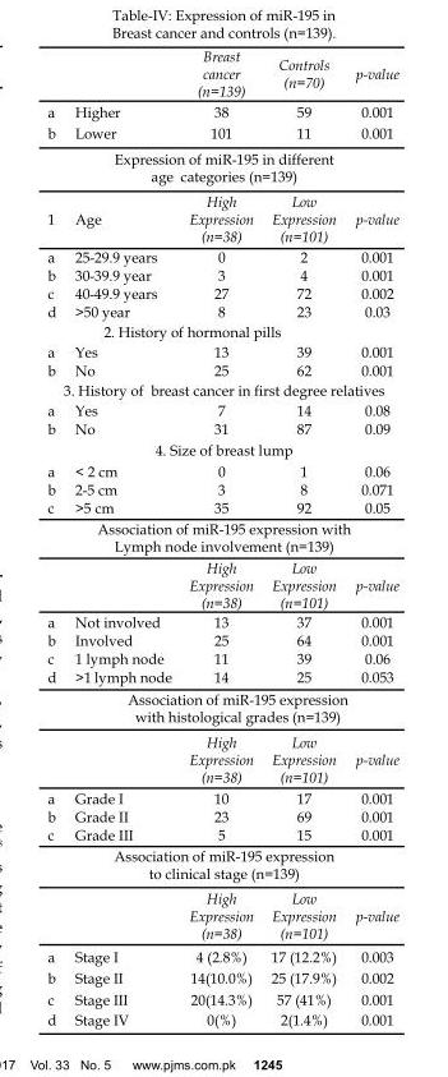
<table><thead><tr><td></td><td></td><td>Breast cancer (n=139)</td><td>Controls (n=70)</td><td>p-value</td></tr></thead><tbody><tr><td>a</td><td>Higher</td><td>38</td><td>59</td><td>0.001</td></tr><tr><td>b</td><td>Lower</td><td>101</td><td>11</td><td>0.001</td></tr><tr><td colspan="5">Expression of miR-195 in different age categories (n=139)</td></tr><tr><td>1</td><td>Age</td><td>High Expression (n=38)</td><td>Low Expression (n=101)</td><td>p-value</td></tr><tr><td>a</td><td>25-29.9 years</td><td>0</td><td>2</td><td>0.001</td></tr><tr><td>b</td><td>30-39.9 year</td><td>3</td><td>4</td><td>0.001</td></tr><tr><td>c</td><td>40-49.9 years</td><td>27</td><td>72</td><td>0.002</td></tr><tr><td>d</td><td>&gt;50 year</td><td>8</td><td>23</td><td>0.03</td></tr><tr><td colspan="5">2. History of hormonal pills</td></tr><tr><td>a</td><td>Yes</td><td>13</td><td>39</td><td>0.001</td></tr><tr><td>b</td><td>No</td><td>25</td><td>62</td><td>0.001</td></tr><tr><td colspan="5">3. History of breast cancer in first degree relatives</td></tr><tr><td>a</td><td>Yes</td><td>7</td><td>14</td><td>0.08</td></tr><tr><td>b</td><td>No</td><td>31</td><td>87</td><td>0.09</td></tr><tr><td colspan="5">4. Size of breast lump</td></tr><tr><td>a</td><td>&lt; 2 cm</td><td>0</td><td>1</td><td>0.06</td></tr><tr><td>b</td><td>2-5 cm</td><td>3</td><td>8</td><td>0.071</td></tr><tr><td>c</td><td>&gt;5 cm</td><td>35</td><td>92</td><td>0.05</td></tr><tr><td colspan="5">Association of miR-195 expression with Lymph node involvement (n=139)</td></tr><tr><td></td><td></td><td>High Expression (n=38)</td><td>Low Expression (n=101)</td><td>p-value</td></tr><tr><td>a</td><td>Not involved</td><td>13</td><td>37</td><td>0.001</td></tr><tr><td>b</td><td>Involved</td><td>25</td><td>64</td><td>0.001</td></tr><tr><td>c</td><td>1 lymph node</td><td>11</td><td>39</td><td>0.06</td></tr><tr><td rowspan="3">d</td><td>&gt;1 lymph node</td><td>14</td><td>25</td><td>0.053</td></tr><tr><td colspan="4">Association of miR-195 expression with histological grades (n=139)</td></tr><tr><td></td><td>High Expression (n=38)</td><td>Low Expression (n=101)</td><td>p-value</td></tr><tr><td>a</td><td>Grade I</td><td>10</td><td>17</td><td>0.001</td></tr><tr><td>b</td><td>Grade II</td><td>23</td><td>69</td><td>0.001</td></tr><tr><td>c</td><td>Grade III</td><td>5</td><td>15</td><td>0.001</td></tr><tr><td colspan="5">Association of miR-195 expression to clinical stage (n=139)</td></tr><tr><td></td><td></td><td>High Expression (n=38)</td><td>Low Expression (n=101)</td><td>p-value</td></tr><tr><td>a</td><td>Stage I</td><td>4 (2.8%)</td><td>17 (12.2%)</td><td>0.003</td></tr><tr><td>b</td><td>Stage II</td><td>14(10.0%)</td><td>25 (17.9%)</td><td>0.002</td></tr><tr><td>c</td><td>Stage III</td><td>20(14.3%)</td><td>57 (41%)</td><td>0.001</td></tr><tr><td>d</td><td>Stage IV</td><td>0(%)</td><td>2(1.4%)</td><td>0.001</td></tr></tbody></table>